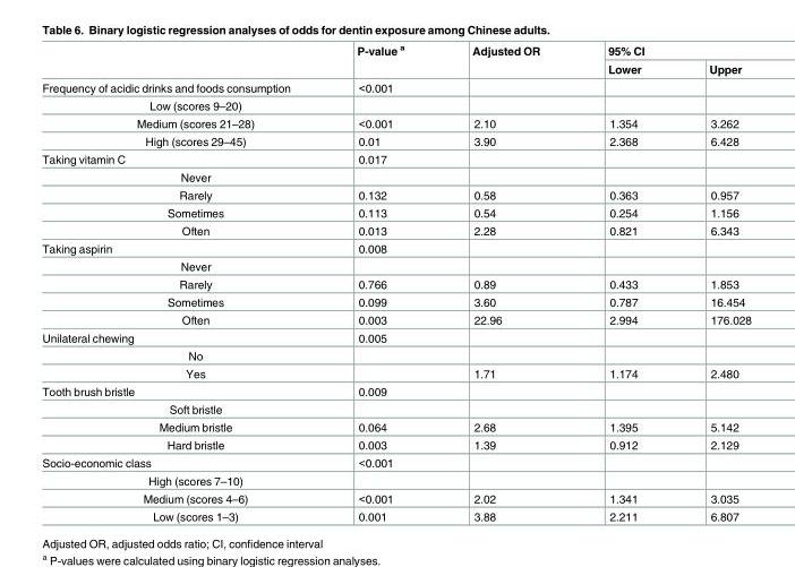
<table><thead><tr><td rowspan="2"></td><td rowspan="2">P-value <sup>a</sup></td><td rowspan="2">Adjusted OR</td><td colspan="2">95% CI</td></tr><tr><td>Lower</td><td>Upper</td></tr></thead><tbody><tr><td>Frequency of acidic drinks and foods consumption</td><td>&lt;0.001</td><td></td><td></td><td></td></tr><tr><td colspan="5">Low (scores 9–20)</td></tr><tr><td>Medium (scores 21–28)</td><td>&lt;0.001</td><td>2.10</td><td>1.354</td><td>3.262</td></tr><tr><td>High (scores 29–45)</td><td>0.01</td><td>3.90</td><td>2.368</td><td>6.428</td></tr><tr><td>Taking vitamin C</td><td>0.017</td><td></td><td></td><td></td></tr><tr><td colspan="5">Never</td></tr><tr><td>Rarely</td><td>0.132</td><td>0.58</td><td>0.363</td><td>0.957</td></tr><tr><td>Sometimes</td><td>0.113</td><td>0.54</td><td>0.254</td><td>1.156</td></tr><tr><td>Often</td><td>0.013</td><td>2.28</td><td>0.821</td><td>6.343</td></tr><tr><td>Taking aspirin</td><td>0.008</td><td></td><td></td><td></td></tr><tr><td colspan="5">Never</td></tr><tr><td>Rarely</td><td>0.766</td><td>0.89</td><td>0.433</td><td>1.853</td></tr><tr><td>Sometimes</td><td>0.099</td><td>3.60</td><td>0.787</td><td>16.454</td></tr><tr><td>Often</td><td>0.003</td><td>22.96</td><td>2.994</td><td>176.028</td></tr><tr><td>Unilateral chewing</td><td>0.005</td><td></td><td></td><td></td></tr><tr><td colspan="5">No</td></tr><tr><td>Yes</td><td></td><td>1.71</td><td>1.174</td><td>2.480</td></tr><tr><td>Tooth brush bristle</td><td>0.009</td><td></td><td></td><td></td></tr><tr><td colspan="5">Soft bristle</td></tr><tr><td>Medium bristle</td><td>0.064</td><td>2.68</td><td>1.395</td><td>5.142</td></tr><tr><td>Hard bristle</td><td>0.003</td><td>1.39</td><td>0.912</td><td>2.129</td></tr><tr><td>Socio-economic class</td><td>&lt;0.001</td><td></td><td></td><td></td></tr><tr><td colspan="5">High (scores 7–10)</td></tr><tr><td>Medium (scores 4–6)</td><td>&lt;0.001</td><td>2.02</td><td>1.341</td><td>3.035</td></tr><tr><td>Low (scores 1–3)</td><td>0.001</td><td>3.88</td><td>2.211</td><td>6.807</td></tr></tbody></table>